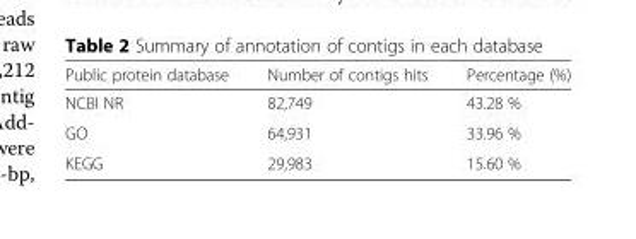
<table><thead><tr><td>Public protein database</td><td>Number of contigs hits</td><td>Percentage (%)</td></tr></thead><tbody><tr><td>NCBI NR</td><td>82,749</td><td>43.28 %</td></tr><tr><td>GO</td><td>64,931</td><td>33.96 %</td></tr><tr><td>KEGG</td><td>29,983</td><td>15.60 %</td></tr></tbody></table>